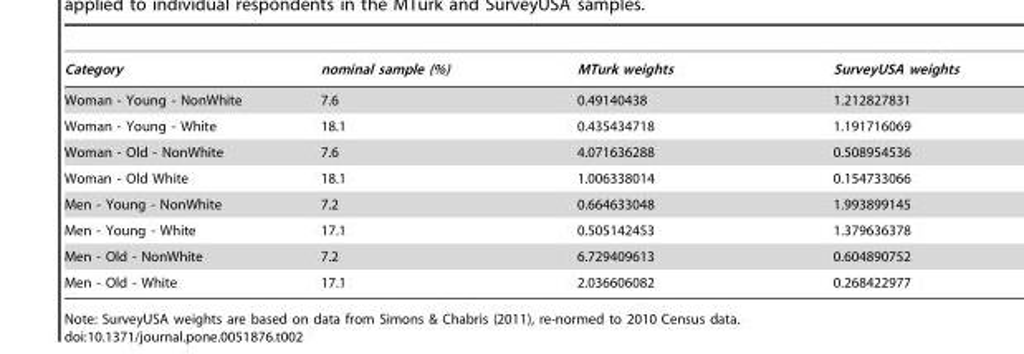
<table><thead><tr><td>Category</td><td>nominal sample (%)</td><td>MTurk weights</td><td>SurveyUSA weights</td></tr></thead><tbody><tr><td>Woman - Young - NonWhite</td><td>7.6</td><td>0.49140438</td><td>1.212827831</td></tr><tr><td>Woman - Young - White</td><td>18.1</td><td>0.435434718</td><td>1.191716069</td></tr><tr><td>Woman - Old - NonWhite</td><td>7.6</td><td>4.071636288</td><td>0.508954536</td></tr><tr><td>Woman - Old White</td><td>18.1</td><td>1.006338014</td><td>0.154733066</td></tr><tr><td>Men - Young - NonWhite</td><td>7.2</td><td>0.664633048</td><td>1.993899145</td></tr><tr><td>Men - Young - White</td><td>17.1</td><td>0.505142453</td><td>1.379636378</td></tr><tr><td>Men - Old - NonWhite</td><td>7.2</td><td>6.729409613</td><td>0.604890752</td></tr><tr><td>Men - Old - White</td><td>17.1</td><td>2.036606082</td><td>0.268422977</td></tr></tbody></table>